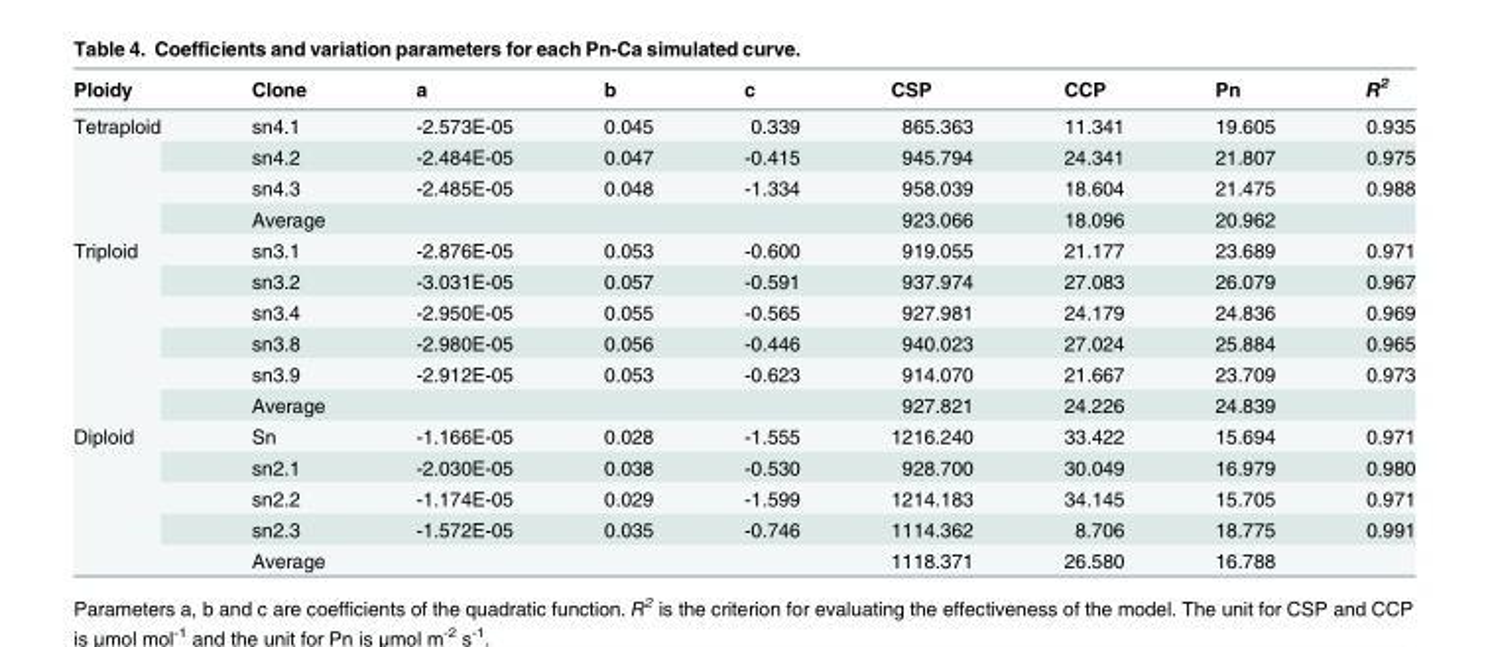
<table><thead><tr><td>Ploidy</td><td>Clone</td><td>a</td><td>b</td><td>c</td><td>CSP</td><td>CCP</td><td>Pn</td><td>R<sup>2</sup></td></tr></thead><tbody><tr><td rowspan="4">Tetraploid</td><td>sn4.1</td><td>-2.573E-05</td><td>0.045</td><td>0.339</td><td>865.363</td><td>11.341</td><td>19.605</td><td>0.935</td></tr><tr><td>sn4.2</td><td>-2.484E-05</td><td>0.047</td><td>-0.415</td><td>945.794</td><td>24.341</td><td>21.807</td><td>0.975</td></tr><tr><td>sn4.3</td><td>-2.485E-05</td><td>0.048</td><td>-1.334</td><td>958.039</td><td>18.604</td><td>21.475</td><td>0.988</td></tr><tr><td>Average</td><td></td><td></td><td></td><td>923.066</td><td>18.096</td><td>20.962</td><td></td></tr><tr><td rowspan="6">Triploid</td><td>sn3.1</td><td>-2.876E-05</td><td>0.053</td><td>-0.600</td><td>919.055</td><td>21.177</td><td>23.689</td><td>0.971</td></tr><tr><td>sn3.2</td><td>-3.031E-05</td><td>0.057</td><td>-0.591</td><td>937.974</td><td>27.083</td><td>26.079</td><td>0.967</td></tr><tr><td>sn3.4</td><td>-2.950E-05</td><td>0.055</td><td>-0.565</td><td>927.981</td><td>24.179</td><td>24.836</td><td>0.969</td></tr><tr><td>sn3.8</td><td>-2.980E-05</td><td>0.056</td><td>-0.446</td><td>940.023</td><td>27.024</td><td>25.884</td><td>0.965</td></tr><tr><td>sn3.9</td><td>-2.912E-05</td><td>0.053</td><td>-0.623</td><td>914.070</td><td>21.667</td><td>23.709</td><td>0.973</td></tr><tr><td>Average</td><td></td><td></td><td></td><td>927.821</td><td>24.226</td><td>24.839</td><td></td></tr><tr><td rowspan="5">Diploid</td><td>Sn</td><td>-1.166E-05</td><td>0.028</td><td>-1.555</td><td>1216.240</td><td>33.422</td><td>15.694</td><td>0.971</td></tr><tr><td>sn2.1</td><td>-2.030E-05</td><td>0.038</td><td>-0.530</td><td>928.700</td><td>30.049</td><td>16.979</td><td>0.980</td></tr><tr><td>sn2.2</td><td>-1.174E-05</td><td>0.029</td><td>-1.599</td><td>1214.183</td><td>34.145</td><td>15.705</td><td>0.971</td></tr><tr><td>sn2.3</td><td>-1.572E-05</td><td>0.035</td><td>-0.746</td><td>1114.362</td><td>8.706</td><td>18.775</td><td>0.991</td></tr><tr><td>Average</td><td></td><td></td><td></td><td>1118.371</td><td>26.580</td><td>16.788</td><td></td></tr></tbody></table>